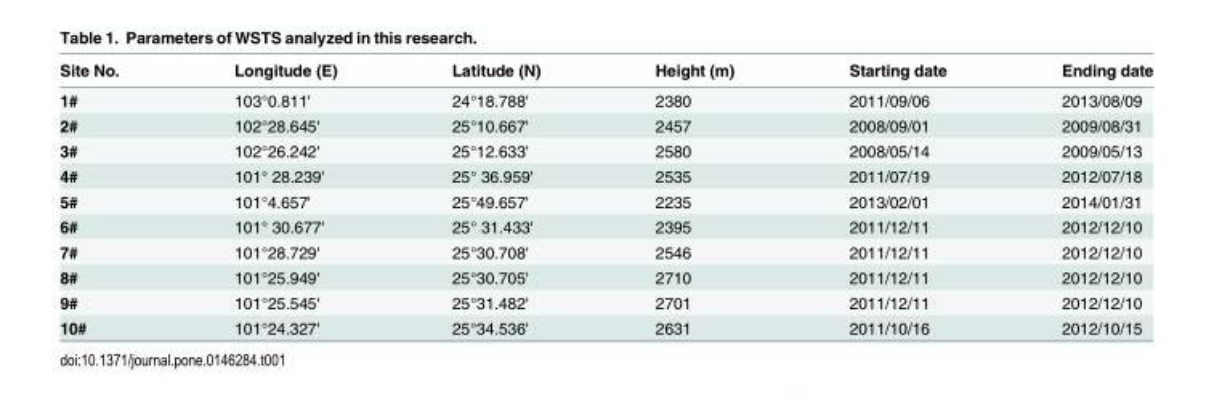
<table><thead><tr><td>Site No.</td><td>Longitude (E)</td><td>Latitude (N)</td><td>Height (m)</td><td>Starting date</td><td>Ending date</td></tr></thead><tbody><tr><td>1#</td><td>103°0.811&#x27;</td><td>24°18.788&#x27;</td><td>2380</td><td>2011/09/06</td><td>2013/08/09</td></tr><tr><td>2#</td><td>102°28.645&#x27;</td><td>25°10.667&#x27;</td><td>2457</td><td>2008/09/01</td><td>2009/08/31</td></tr><tr><td>3#</td><td>102°26.242&#x27;</td><td>25°12.633&#x27;</td><td>2580</td><td>2008/05/14</td><td>2009/05/13</td></tr><tr><td>4#</td><td>101° 28.239&#x27;</td><td>25° 36.959&#x27;</td><td>2535</td><td>2011/07/19</td><td>2012/07/18</td></tr><tr><td>5#</td><td>101°4.657&#x27;</td><td>25°49.657&#x27;</td><td>2235</td><td>2013/02/01</td><td>2014/01/31</td></tr><tr><td>6#</td><td>101° 30.677&#x27;</td><td>25° 31.433&#x27;</td><td>2395</td><td>2011/12/11</td><td>2012/12/10</td></tr><tr><td>7#</td><td>101°28.729&#x27;</td><td>25°30.708&#x27;</td><td>2546</td><td>2011/12/11</td><td>2012/12/10</td></tr><tr><td>8#</td><td>101°25.949&#x27;</td><td>25°30.705&#x27;</td><td>2710</td><td>2011/12/11</td><td>2012/12/10</td></tr><tr><td>9#</td><td>101°25.545&#x27;</td><td>25°31.482&#x27;</td><td>2701</td><td>2011/12/11</td><td>2012/12/10</td></tr><tr><td>10#</td><td>101°24.327&#x27;</td><td>25°34.536&#x27;</td><td>2631</td><td>2011/10/16</td><td>2012/10/15</td></tr></tbody></table>